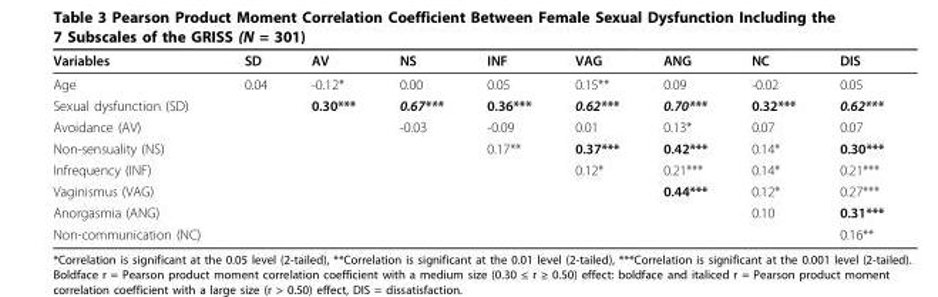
<table><thead><tr><td>Variables</td><td>SD</td><td>AV</td><td>NS</td><td>INF</td><td>VAG</td><td>ANG</td><td>NC</td><td>DIS</td></tr></thead><tbody><tr><td>Age</td><td>0.04</td><td>-0.12*</td><td>0.00</td><td>0.05</td><td>0.15**</td><td>0.09</td><td>-0.02</td><td>0.05</td></tr><tr><td>Sexual dysfunction (SD)</td><td></td><td>0.30***</td><td>0.67***</td><td>0.36***</td><td>0.62***</td><td>0.70***</td><td>0.32***</td><td>0.62***</td></tr><tr><td>Avoidance (AV)</td><td></td><td></td><td>-0.03</td><td>-0.09</td><td>0.01</td><td>0.13*</td><td>0.07</td><td>0.07</td></tr><tr><td>Non-sensuality (NS)</td><td></td><td></td><td></td><td>0.17**</td><td>0.37***</td><td>0.42***</td><td>0.14*</td><td>0.30***</td></tr><tr><td>Infrequency (INF)</td><td></td><td></td><td></td><td></td><td>0.12*</td><td>0.21***</td><td>0.14*</td><td>0.21***</td></tr><tr><td>Vaginismus (VAG)</td><td></td><td></td><td></td><td></td><td></td><td>0.44***</td><td>0.12*</td><td>0.27***</td></tr><tr><td>Anorgasmia (ANG)</td><td></td><td></td><td></td><td></td><td></td><td></td><td>0.10</td><td>0.31***</td></tr><tr><td>Non-communication (NC)</td><td></td><td></td><td></td><td></td><td></td><td></td><td></td><td>0.16**</td></tr></tbody></table>